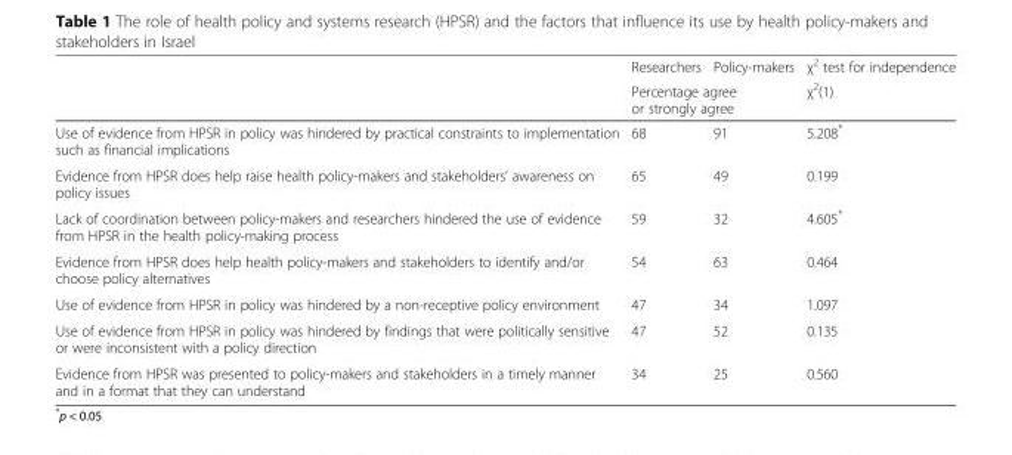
<table><thead><tr><td rowspan="2"></td><td>Researchers</td><td>Policy-makers</td><td rowspan="2">χ<sup>2</sup> test for independence χ<sup>2</sup>(1)</td></tr><tr><td colspan="2">Percentage agree or strongly agree</td></tr></thead><tbody><tr><td>Use of evidence from HPSR in policy was hindered by practical constraints to implementation such as financial implications</td><td>68</td><td>91</td><td>5.208*</td></tr><tr><td>Evidence from HPSR does help raise health policy-makers and stakeholders’ awareness on policy issues</td><td>65</td><td>49</td><td>0.199</td></tr><tr><td>Lack of coordination between policy-makers and researchers hindered the use of evidence from HPSR in the health policy-making process</td><td>59</td><td>32</td><td>4.605*</td></tr><tr><td>Evidence from HPSR does help health policy-makers and stakeholders to identify and/or choose policy alternatives</td><td>54</td><td>63</td><td>0.464</td></tr><tr><td>Use of evidence from HPSR in policy was hindered by a non-receptive policy environment</td><td>47</td><td>34</td><td>1.097</td></tr><tr><td>Use of evidence from HPSR in policy was hindered by findings that were politically sensitive or were inconsistent with a policy direction</td><td>47</td><td>52</td><td>0.135</td></tr><tr><td>Evidence from HPSR was presented to policy-makers and stakeholders in a timely manner and in a format that they can understand</td><td>34</td><td>25</td><td>0.560</td></tr></tbody></table>